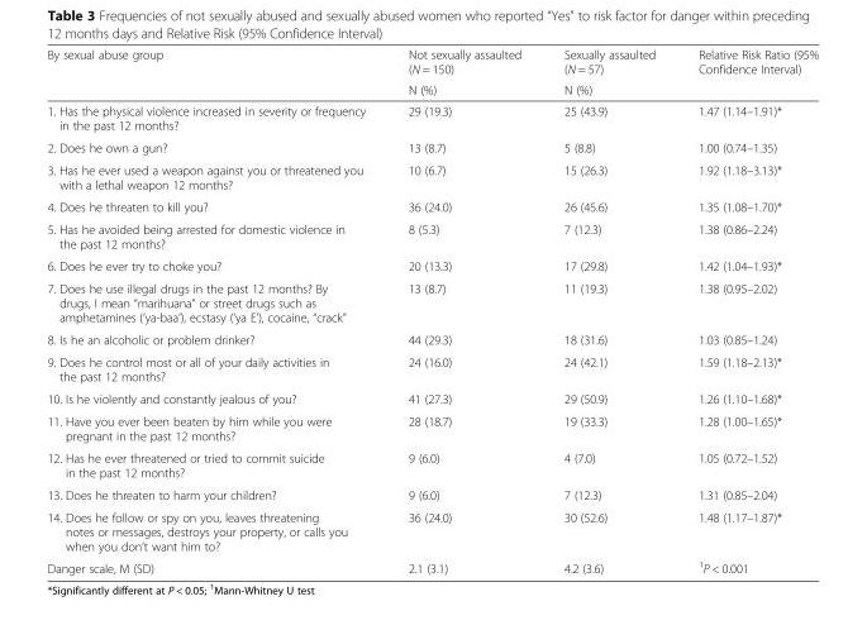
<table><thead><tr><td rowspan="2">By sexual abuse group</td><td rowspan="2">Not sexually assaulted (N = 150) N (%)</td><td rowspan="2">Sexually assaulted (N = 57) N (%)</td><td rowspan="2">Relative Risk Ratio (95% Confidence Interval)</td></tr><tr></tr></thead><tbody><tr><td>1. Has the physical violence increased in severity or frequency in the past 12 months?</td><td>29 (19.3)</td><td>25 (43.9)</td><td>1.47 (1.14–1.91)*</td></tr><tr><td>2. Does he own a gun?</td><td>13 (8.7)</td><td>5 (8.8)</td><td>1.00 (0.74–1.35)</td></tr><tr><td>3. Has he ever used a weapon against you or threatened you with a lethal weapon 12 months?</td><td>10 (6.7)</td><td>15 (26.3)</td><td>1.92 (1.18–3.13)*</td></tr><tr><td>4. Does he threaten to kill you?</td><td>36 (24.0)</td><td>26 (45.6)</td><td>1.35 (1.08–1.70)*</td></tr><tr><td>5. Has he avoided being arrested for domestic violence in the past 12 months?</td><td>8 (5.3)</td><td>7 (12.3)</td><td>1.38 (0.86–2.24)</td></tr><tr><td>6. Does he ever try to choke you?</td><td>20 (13.3)</td><td>17 (29.8)</td><td>1.42 (1.04–1.93)*</td></tr><tr><td>7. Does he use illegal drugs in the past 12 months? By drugs, I mean “marihuana” or street drugs such as amphetamines (‘ya-baa’), ecstasy (‘ya E’), cocaine, “crack”</td><td>13 (8.7)</td><td>11 (19.3)</td><td>1.38 (0.95–2.02)</td></tr><tr><td>8. Is he an alcoholic or problem drinker?</td><td>44 (29.3)</td><td>18 (31.6)</td><td>1.03 (0.85–1.24)</td></tr><tr><td>9. Does he control most or all of your daily activities in the past 12 months?</td><td>24 (16.0)</td><td>24 (42.1)</td><td>1.59 (1.18–2.13)*</td></tr><tr><td>10. Is he violently and constantly jealous of you?</td><td>41 (27.3)</td><td>29 (50.9)</td><td>1.26 (1.10–1.68)*</td></tr><tr><td>11. Have you ever been beaten by him while you were pregnant in the past 12 months?</td><td>28 (18.7)</td><td>19 (33.3)</td><td>1.28 (1.00–1.65)*</td></tr><tr><td>12. Has he ever threatened or tried to commit suicide in the past 12 months?</td><td>9 (6.0)</td><td>4 (7.0)</td><td>1.05 (0.72–1.52)</td></tr><tr><td>13. Does he threaten to harm your children?</td><td>9 (6.0)</td><td>7 (12.3)</td><td>1.31 (0.85–2.04)</td></tr><tr><td>14. Does he follow or spy on you, leaves threatening notes or messages, destroys your property, or calls you when you don’t want him to?</td><td>36 (24.0)</td><td>30 (52.6)</td><td>1.48 (1.17–1.87)*</td></tr><tr><td>Danger scale, M (SD)</td><td>2.1 (3.1)</td><td>4.2 (3.6)</td><td><sup>1</sup>P &lt; 0.001</td></tr></tbody></table>